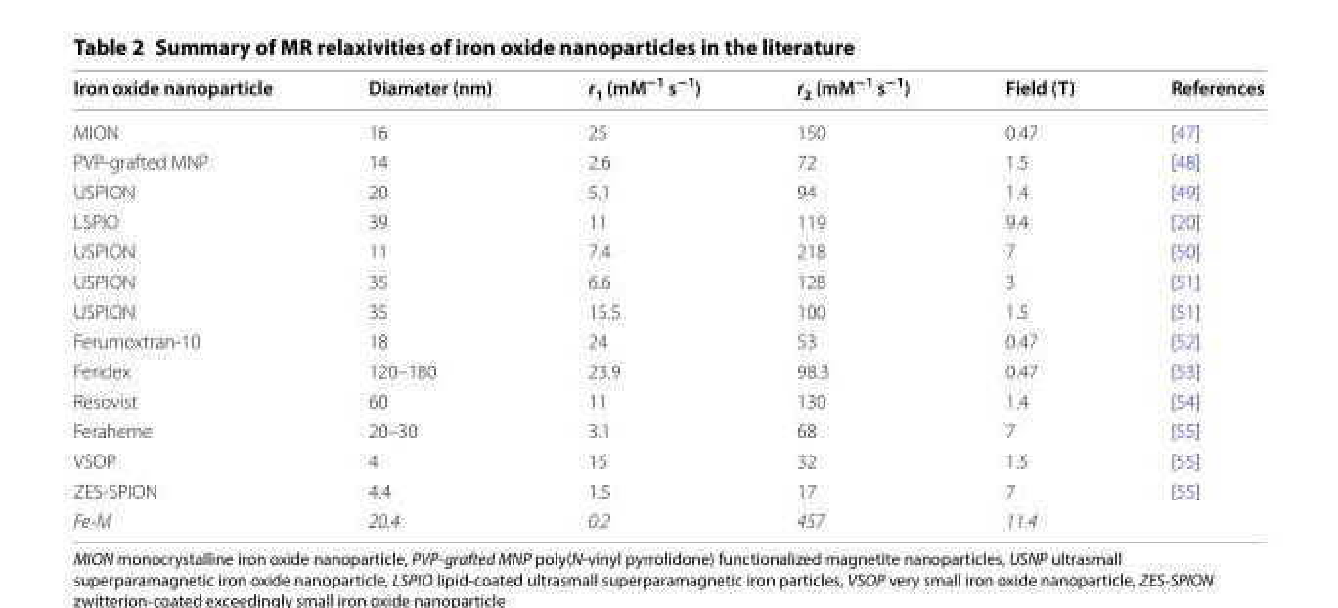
<table><thead><tr><td>Iron oxide nanoparticle</td><td>Diameter (nm)</td><td>r<sub>1</sub> (mM<sup>−1</sup> s<sup>−1</sup>)</td><td>r<sub>2</sub> (mM<sup>−1</sup> s<sup>−1</sup>)</td><td>Field (T)</td><td>References</td></tr></thead><tbody><tr><td>MION</td><td>16</td><td>25</td><td>150</td><td>0.47</td><td>[47]</td></tr><tr><td>PVP‑grafted MNP</td><td>14</td><td>2.6</td><td>72</td><td>1.5</td><td>[48]</td></tr><tr><td>USPION</td><td>20</td><td>5.1</td><td>94</td><td>1.4</td><td>[49]</td></tr><tr><td>LSPIO</td><td>39</td><td>11</td><td>119</td><td>9.4</td><td>[20]</td></tr><tr><td>USPION</td><td>11</td><td>7.4</td><td>218</td><td>7</td><td>[50]</td></tr><tr><td>USPION</td><td>35</td><td>6.6</td><td>128</td><td>3</td><td>[51]</td></tr><tr><td>USPION</td><td>35</td><td>15.5</td><td>100</td><td>1.5</td><td>[51]</td></tr><tr><td>Ferumoxtran‑10</td><td>18</td><td>24</td><td>53</td><td>0.47</td><td>[52]</td></tr><tr><td>Feridex</td><td>120–180</td><td>23.9</td><td>98.3</td><td>0.47</td><td>[53]</td></tr><tr><td>Resovist</td><td>60</td><td>11</td><td>130</td><td>1.4</td><td>[54]</td></tr><tr><td>Feraheme</td><td>20–30</td><td>3.1</td><td>68</td><td>7</td><td>[55]</td></tr><tr><td>VSOP</td><td>4</td><td>15</td><td>32</td><td>1.5</td><td>[55]</td></tr><tr><td>ZES‑SPION</td><td>4.4</td><td>1.5</td><td>17</td><td>7</td><td>[55]</td></tr><tr><td>Fe-M</td><td>20.4</td><td>0.2</td><td>457</td><td>11.4</td><td></td></tr></tbody></table>